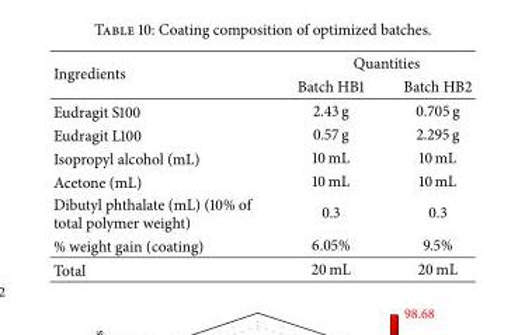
<table><thead><tr><td rowspan="2">Ingredients</td><td colspan="2">Quantities</td></tr><tr><td>Batch HB1</td><td>Batch HB2</td></tr></thead><tbody><tr><td>Eudragit S100</td><td>2.43 g</td><td>0.705 g</td></tr><tr><td>Eudragit L100</td><td>0.57 g</td><td>2.295 g</td></tr><tr><td>Isopropyl alcohol (mL)</td><td>10 mL</td><td>10 mL</td></tr><tr><td>Acetone (mL)</td><td>10 mL</td><td>10 mL</td></tr><tr><td>Dibutyl phthalate (mL) (10% of total polymer weight)</td><td>0.3</td><td>0.3</td></tr><tr><td>% weight gain (coating)</td><td>6.05%</td><td>9.5%</td></tr><tr><td>Total</td><td>20 mL</td><td>20 mL</td></tr></tbody></table>